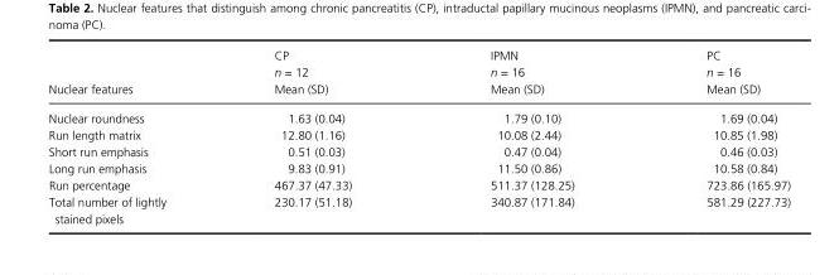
<table><thead><tr><td>Nuclear features</td><td>CP n = 12 Mean (SD)</td><td>IPMN n = 16 Mean (SD)</td><td>PC n = 16 Mean (SD)</td></tr></thead><tbody><tr><td>Nuclear roundness</td><td>1.63 (0.04)</td><td>1.79 (0.10)</td><td>1.69 (0.04)</td></tr><tr><td>Run length matrix</td><td>12.80 (1.16)</td><td>10.08 (2.44)</td><td>10.85 (1.98)</td></tr><tr><td>Short run emphasis</td><td>0.51 (0.03)</td><td>0.47 (0.04)</td><td>0.46 (0.03)</td></tr><tr><td>Long run emphasis</td><td>9.83 (0.91)</td><td>11.50 (0.86)</td><td>10.58 (0.84)</td></tr><tr><td>Run percentage</td><td>467.37 (47.33)</td><td>511.37 (128.25)</td><td>723.86 (165.97)</td></tr><tr><td>Total number of lightly stained pixels</td><td>230.17 (51.18)</td><td>340.87 (171.84)</td><td>581.29 (227.73)</td></tr></tbody></table>